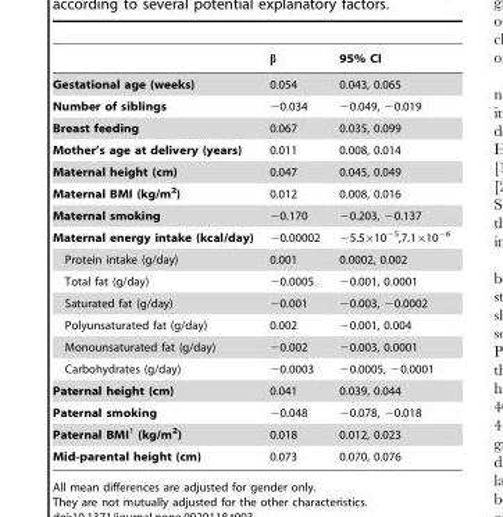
<table><thead><tr><td></td><td>β</td><td>95% CI</td></tr></thead><tbody><tr><td>Gestational age (weeks)</td><td>0.054</td><td>0.043, 0.065</td></tr><tr><td>Number of siblings</td><td>−0.034</td><td>−0.049, −0.019</td></tr><tr><td>Breast feeding</td><td>0.067</td><td>0.035, 0.099</td></tr><tr><td>Mother’s age at delivery (years)</td><td>0.011</td><td>0.008, 0.014</td></tr><tr><td>Maternal height (cm)</td><td>0.047</td><td>0.045, 0.049</td></tr><tr><td>Maternal BMI (kg/m<sup>2</sup>)</td><td>0.012</td><td>0.008, 0.016</td></tr><tr><td>Maternal smoking</td><td>−0.170</td><td>−0.203, −0.137</td></tr><tr><td>Maternal energy intake (kcal/day)</td><td>−0.00002</td><td>−5.5×10<sup>−5</sup>,7.1×10<sup>−6</sup></td></tr><tr><td>Protein intake (g/day)</td><td>0.001</td><td>0.0002, 0.002</td></tr><tr><td>Total fat (g/day)</td><td>−0.0005</td><td>−0.001, 0.0001</td></tr><tr><td>Saturated fat (g/day)</td><td>−0.001</td><td>−0.003, −0.0002</td></tr><tr><td>Polyunsaturated fat (g/day)</td><td>0.002</td><td>−0.001, 0.004</td></tr><tr><td>Monounsaturated fat (g/day)</td><td>−0.002</td><td>−0.003, 0.0001</td></tr><tr><td>Carbohydrates (g/day)</td><td>−0.0003</td><td>−0.0005, −0.0001</td></tr><tr><td>Paternal height (cm)</td><td>0.041</td><td>0.039, 0.044</td></tr><tr><td>Paternal smoking</td><td>−0.048</td><td>−0.078, −0.018</td></tr><tr><td>Paternal BMI<sup>1</sup> (kg/m<sup>2</sup>)</td><td>0.018</td><td>0.012, 0.023</td></tr><tr><td>Mid-parental height (cm)</td><td>0.073</td><td>0.070, 0.076</td></tr></tbody></table>